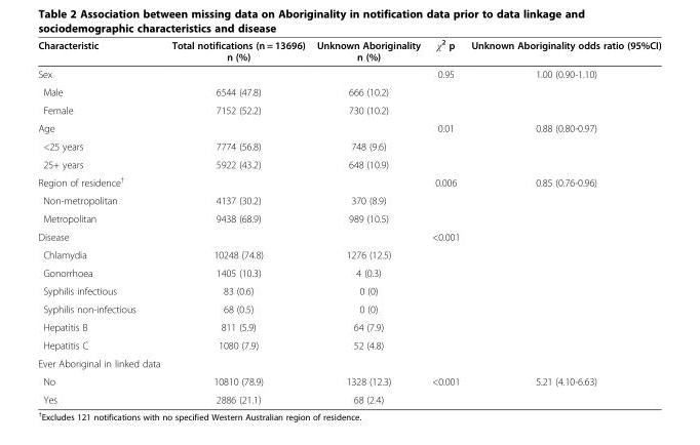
<table><thead><tr><td>Characteristic</td><td>Total notifications (n = 13696) n (%)</td><td>Unknown Aboriginality n (%)</td><td>χ<sup>2</sup> p</td><td>Unknown Aboriginality odds ratio (95%CI)</td></tr></thead><tbody><tr><td colspan="3">Sex</td><td rowspan="3">0.95</td><td rowspan="3">1.00 (0.90-1.10)</td></tr><tr><td>Male</td><td>6544 (47.8)</td><td>666 (10.2)</td></tr><tr><td>Female</td><td>7152 (52.2)</td><td>730 (10.2)</td></tr><tr><td colspan="3">Age</td><td rowspan="3">0.01</td><td rowspan="3">0.88 (0.80-0.97)</td></tr><tr><td>&lt;25 years</td><td>7774 (56.8)</td><td>748 (9.6)</td></tr><tr><td>25+ years</td><td>5922 (43.2)</td><td>648 (10.9)</td></tr><tr><td colspan="3">Region of residence<sup>†</sup></td><td rowspan="3">0.006</td><td rowspan="3">0.85 (0.76-0.96)</td></tr><tr><td>Non-metropolitan</td><td>4137 (30.2)</td><td>370 (8.9)</td></tr><tr><td>Metropolitan</td><td>9438 (68.9)</td><td>989 (10.5)</td></tr><tr><td colspan="3">Disease</td><td rowspan="8">&lt;0.001</td><td rowspan="8"></td></tr><tr><td>Chlamydia</td><td>10248 (74.8)</td><td>1276 (12.5)</td></tr><tr><td>Gonorrhoea</td><td>1405 (10.3)</td><td>4 (0.3)</td></tr><tr><td>Syphilis infectious</td><td>83 (0.6)</td><td>0 (0)</td></tr><tr><td>Syphilis non-infectious</td><td>68 (0.5)</td><td>0 (0)</td></tr><tr><td>Hepatitis B</td><td>811 (5.9)</td><td>64 (7.9)</td></tr><tr><td>Hepatitis C</td><td>1080 (7.9)</td><td>52 (4.8)</td></tr><tr><td colspan="3">Ever Aboriginal in linked data</td></tr><tr><td>No</td><td>10810 (78.9)</td><td>1328 (12.3)</td><td>&lt;0.001</td><td>5.21 (4.10-6.63)</td></tr><tr><td>Yes</td><td>2886 (21.1)</td><td>68 (2.4)</td><td></td><td></td></tr></tbody></table>